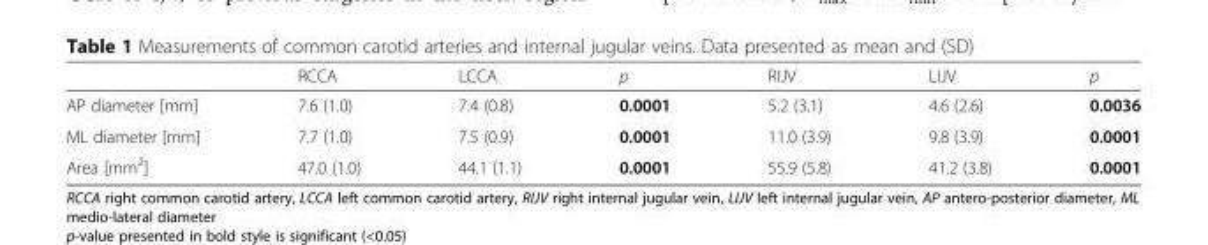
<table><thead><tr><td></td><td>RCCA</td><td>LCCA</td><td>p</td><td>RIJV</td><td>LIJV</td><td>p</td></tr></thead><tbody><tr><td>AP diameter [mm]</td><td>7.6 (1.0)</td><td>7.4 (0.8)</td><td>0.0001</td><td>5.2 (3.1)</td><td>4.6 (2.6)</td><td>0.0036</td></tr><tr><td>ML diameter [mm]</td><td>7.7 (1.0)</td><td>7.5 (0.9)</td><td>0.0001</td><td>11.0 (3.9)</td><td>9.8 (3.9)</td><td>0.0001</td></tr><tr><td>Area [mm<sup>2</sup>]</td><td>47.0 (1.0)</td><td>44.1 (1.1)</td><td>0.0001</td><td>55.9 (5.8)</td><td>41.2 (3.8)</td><td>0.0001</td></tr></tbody></table>